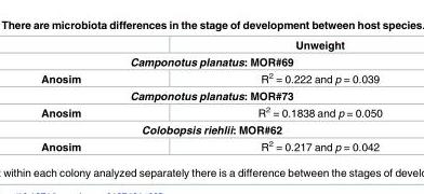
<table><thead><tr><td></td><td>Unweight</td></tr></thead><tbody><tr><td colspan="2">Camponotus planatus: MOR#69</td></tr><tr><td>Anosim</td><td>R<sup>2</sup> = 0.222 and p = 0.039</td></tr><tr><td colspan="2">Camponotus planatus: MOR#73</td></tr><tr><td>Anosim</td><td>R<sup>2</sup> = 0.1838 and p = 0.050</td></tr><tr><td colspan="2">Colobopsis riehlii: MOR#62</td></tr><tr><td>Anosim</td><td>R<sup>2</sup> = 0.217 and p = 0.042</td></tr></tbody></table>